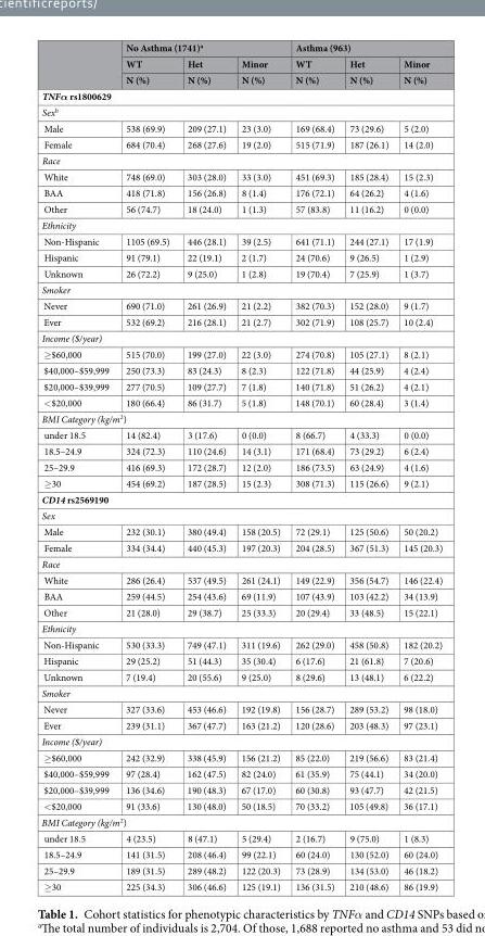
<table><thead><tr><td rowspan="3"></td><td colspan="3">No Asthma (1741)<sup>a</sup></td><td colspan="3">Asthma (963)</td></tr><tr><td rowspan="2">WT N (%)</td><td rowspan="2">Het N (%)</td><td rowspan="2">Minor N (%)</td><td rowspan="2">WT N (%)</td><td rowspan="2">Het N (%)</td><td rowspan="2">Minor N (%)</td></tr><tr></tr></thead><tbody><tr><td colspan="7">TNFα rs1800629</td></tr><tr><td colspan="7">Sex<sup>b</sup></td></tr><tr><td>Male</td><td>538 (69.9)</td><td>209 (27.1)</td><td>23 (3.0)</td><td>169 (68.4)</td><td>73 (29.6)</td><td>5 (2.0)</td></tr><tr><td>Female</td><td>684 (70.4)</td><td>268 (27.6)</td><td>19 (2.0)</td><td>515 (71.9)</td><td>187 (26.1)</td><td>14 (2.0)</td></tr><tr><td colspan="7">Race</td></tr><tr><td>White</td><td>748 (69.0)</td><td>303 (28.0)</td><td>33 (3.0)</td><td>451 (69.3)</td><td>185 (28.4)</td><td>15 (2.3)</td></tr><tr><td>BAA</td><td>418 (71.8)</td><td>156 (26.8)</td><td>8 (1.4)</td><td>176 (72.1)</td><td>64 (26.2)</td><td>4 (1.6)</td></tr><tr><td>Other</td><td>56 (74.7)</td><td>18 (24.0)</td><td>1 (1.3)</td><td>57 (83.8)</td><td>11 (16.2)</td><td>0 (0.0)</td></tr><tr><td colspan="7">Ethnicity</td></tr><tr><td>Non-Hispanic</td><td>1105 (69.5)</td><td>446 (28.1)</td><td>39 (2.5)</td><td>641 (71.1)</td><td>244 (27.1)</td><td>17 (1.9)</td></tr><tr><td>Hispanic</td><td>91 (79.1)</td><td>22 (19.1)</td><td>2 (1.7)</td><td>24 (70.6)</td><td>9 (26.5)</td><td>1 (2.9)</td></tr><tr><td>Unknown</td><td>26 (72.2)</td><td>9 (25.0)</td><td>1 (2.8)</td><td>19 (70.4)</td><td>7 (25.9)</td><td>1 (3.7)</td></tr><tr><td colspan="7">Smoker</td></tr><tr><td>Never</td><td>690 (71.0)</td><td>261 (26.9)</td><td>21 (2.2)</td><td>382 (70.3)</td><td>152 (28.0)</td><td>9 (1.7)</td></tr><tr><td>Ever</td><td>532 (69.2)</td><td>216 (28.1)</td><td>21 (2.7)</td><td>302 (71.9)</td><td>108 (25.7)</td><td>10 (2.4)</td></tr><tr><td colspan="7">Income ($/year)</td></tr><tr><td>≥$60,000</td><td>515 (70.0)</td><td>199 (27.0)</td><td>22 (3.0)</td><td>274 (70.8)</td><td>105 (27.1)</td><td>8 (2.1)</td></tr><tr><td>$40,000–$59,999</td><td>250 (73.3)</td><td>83 (24.3)</td><td>8 (2.3)</td><td>122 (71.8)</td><td>44 (25.9)</td><td>4 (2.4)</td></tr><tr><td>$20,000–$39,999</td><td>277 (70.5)</td><td>109 (27.7)</td><td>7 (1.8)</td><td>140 (71.8)</td><td>51 (26.2)</td><td>4 (2.1)</td></tr><tr><td>&lt;$20,000</td><td>180 (66.4)</td><td>86 (31.7)</td><td>5 (1.8)</td><td>148 (70.1)</td><td>60 (28.4)</td><td>3 (1.4)</td></tr><tr><td colspan="7">BMI Category (kg/m<sup>2</sup>)</td></tr><tr><td>under 18.5</td><td>14 (82.4)</td><td>3 (17.6)</td><td>0 (0.0)</td><td>8 (66.7)</td><td>4 (33.3)</td><td>0 (0.0)</td></tr><tr><td>18.5–24.9</td><td>324 (72.3)</td><td>110 (24.6)</td><td>14 (3.1)</td><td>171 (68.4)</td><td>73 (29.2)</td><td>6 (2.4)</td></tr><tr><td>25–29.9</td><td>416 (69.3)</td><td>172 (28.7)</td><td>12 (2.0)</td><td>186 (73.5)</td><td>63 (24.9)</td><td>4 (1.6)</td></tr><tr><td>≥30</td><td>454 (69.2)</td><td>187 (28.5)</td><td>15 (2.3)</td><td>308 (71.3)</td><td>115 (26.6)</td><td>9 (2.1)</td></tr><tr><td colspan="7">CD14 rs2569190</td></tr><tr><td colspan="7">Sex</td></tr><tr><td>Male</td><td>232 (30.1)</td><td>380 (49.4)</td><td>158 (20.5)</td><td>72 (29.1)</td><td>125 (50.6)</td><td>50 (20.2)</td></tr><tr><td>Female</td><td>334 (34.4)</td><td>440 (45.3)</td><td>197 (20.3)</td><td>204 (28.5)</td><td>367 (51.3)</td><td>145 (20.3)</td></tr><tr><td colspan="7">Race</td></tr><tr><td>White</td><td>286 (26.4)</td><td>537 (49.5)</td><td>261 (24.1)</td><td>149 (22.9)</td><td>356 (54.7)</td><td>146 (22.4)</td></tr><tr><td>BAA</td><td>259 (44.5)</td><td>254 (43.6)</td><td>69 (11.9)</td><td>107 (43.9)</td><td>103 (42.2)</td><td>34 (13.9)</td></tr><tr><td>Other</td><td>21 (28.0)</td><td>29 (38.7)</td><td>25 (33.3)</td><td>20 (29.4)</td><td>33 (48.5)</td><td>15 (22.1)</td></tr><tr><td colspan="7">Ethnicity</td></tr><tr><td>Non-Hispanic</td><td>530 (33.3)</td><td>749 (47.1)</td><td>311 (19.6)</td><td>262 (29.0)</td><td>458 (50.8)</td><td>182 (20.2)</td></tr><tr><td>Hispanic</td><td>29 (25.2)</td><td>51 (44.3)</td><td>35 (30.4)</td><td>6 (17.6)</td><td>21 (61.8)</td><td>7 (20.6)</td></tr><tr><td>Unknown</td><td>7 (19.4)</td><td>20 (55.6)</td><td>9 (25.0)</td><td>8 (29.6)</td><td>13 (48.1)</td><td>6 (22.2)</td></tr><tr><td colspan="7">Smoker</td></tr><tr><td>Never</td><td>327 (33.6)</td><td>453 (46.6)</td><td>192 (19.8)</td><td>156 (28.7)</td><td>289 (53.2)</td><td>98 (18.0)</td></tr><tr><td>Ever</td><td>239 (31.1)</td><td>367 (47.7)</td><td>163 (21.2)</td><td>120 (28.6)</td><td>203 (48.3)</td><td>97 (23.1)</td></tr><tr><td colspan="7">Income ($/year)</td></tr><tr><td>≥$60,000</td><td>242 (32.9)</td><td>338 (45.9)</td><td>156 (21.2)</td><td>85 (22.0)</td><td>219 (56.6)</td><td>83 (21.4)</td></tr><tr><td>$40,000–$59,999</td><td>97 (28.4)</td><td>162 (47.5)</td><td>82 (24.0)</td><td>61 (35.9)</td><td>75 (44.1)</td><td>34 (20.0)</td></tr><tr><td>$20,000–$39,999</td><td>136 (34.6)</td><td>190 (48.3)</td><td>67 (17.0)</td><td>60 (30.8)</td><td>93 (47.7)</td><td>42 (21.5)</td></tr><tr><td>&lt;$20,000</td><td>91 (33.6)</td><td>130 (48.0)</td><td>50 (18.5)</td><td>70 (33.2)</td><td>105 (49.8)</td><td>36 (17.1)</td></tr><tr><td colspan="7">BMI Category (kg/m<sup>2</sup>)</td></tr><tr><td>under 18.5</td><td>4 (23.5)</td><td>8 (47.1)</td><td>5 (29.4)</td><td>2 (16.7)</td><td>9 (75.0)</td><td>1 (8.3)</td></tr><tr><td>18.5–24.9</td><td>141 (31.5)</td><td>208 (46.4)</td><td>99 (22.1)</td><td>60 (24.0)</td><td>130 (52.0)</td><td>60 (24.0)</td></tr><tr><td>25–29.9</td><td>189 (31.5)</td><td>289 (48.2)</td><td>122 (20.3)</td><td>73 (28.9)</td><td>134 (53.0)</td><td>46 (18.2)</td></tr><tr><td>≥30</td><td>225 (34.3)</td><td>306 (46.6)</td><td>125 (19.1)</td><td>136 (31.5)</td><td>210 (48.6)</td><td>86 (19.9)</td></tr></tbody></table>